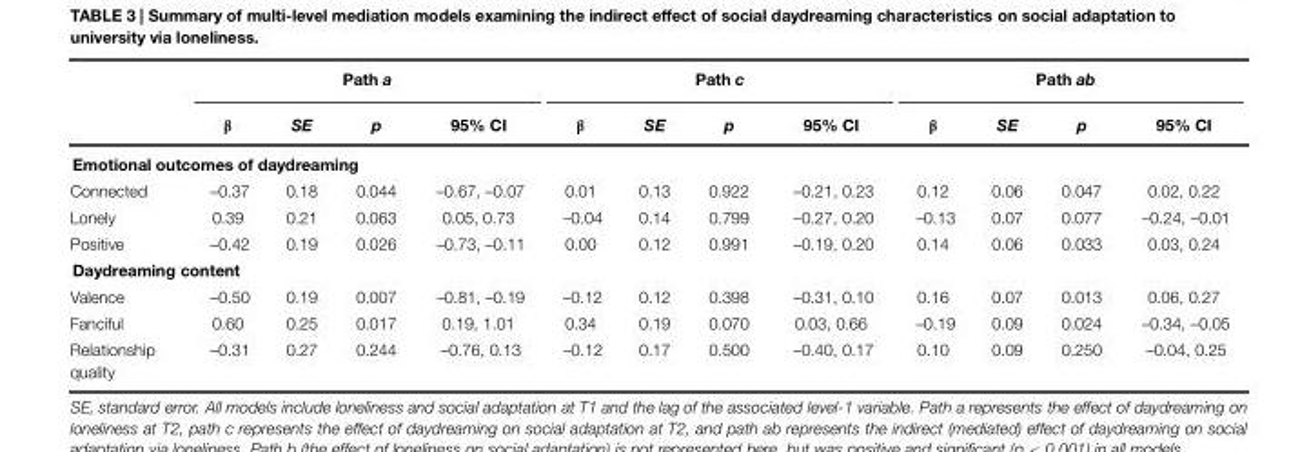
<table><thead><tr><td rowspan="2"></td><td colspan="4">Path a</td><td colspan="4">Path c</td><td colspan="4">Path ab</td></tr><tr><td>β</td><td>SE</td><td>p</td><td>95% CI</td><td>β</td><td>SE</td><td>p</td><td>95% CI</td><td>β</td><td>SE</td><td>p</td><td>95% CI</td></tr></thead><tbody><tr><td colspan="13">Emotional outcomes of daydreaming</td></tr><tr><td>Connected</td><td>–0.37</td><td>0.18</td><td>0.044</td><td>–0.67, –0.07</td><td>0.01</td><td>0.13</td><td>0.922</td><td>–0.21, 0.23</td><td>0.12</td><td>0.06</td><td>0.047</td><td>0.02, 0.22</td></tr><tr><td>Lonely</td><td>0.39</td><td>0.21</td><td>0.063</td><td>0.05, 0.73</td><td>–0.04</td><td>0.14</td><td>0.799</td><td>–0.27, 0.20</td><td>–0.13</td><td>0.07</td><td>0.077</td><td>–0.24, –0.01</td></tr><tr><td>Positive</td><td>–0.42</td><td>0.19</td><td>0.026</td><td>–0.73, –0.11</td><td>0.00</td><td>0.12</td><td>0.991</td><td>–0.19, 0.20</td><td>0.14</td><td>0.06</td><td>0.033</td><td>0.03, 0.24</td></tr><tr><td colspan="13">Daydreaming content</td></tr><tr><td>Valence</td><td>–0.50</td><td>0.19</td><td>0.007</td><td>–0.81, –0.19</td><td>–0.12</td><td>0.12</td><td>0.398</td><td>–0.31, 0.10</td><td>0.16</td><td>0.07</td><td>0.013</td><td>0.06, 0.27</td></tr><tr><td>Fanciful</td><td>0.60</td><td>0.25</td><td>0.017</td><td>0.19, 1.01</td><td>0.34</td><td>0.19</td><td>0.070</td><td>0.03, 0.66</td><td>–0.19</td><td>0.09</td><td>0.024</td><td>–0.34, –0.05</td></tr><tr><td>Relationship quality</td><td>–0.31</td><td>0.27</td><td>0.244</td><td>–0.76, 0.13</td><td>–0.12</td><td>0.17</td><td>0.500</td><td>–0.40, 0.17</td><td>0.10</td><td>0.09</td><td>0.250</td><td>–0.04, 0.25</td></tr></tbody></table>